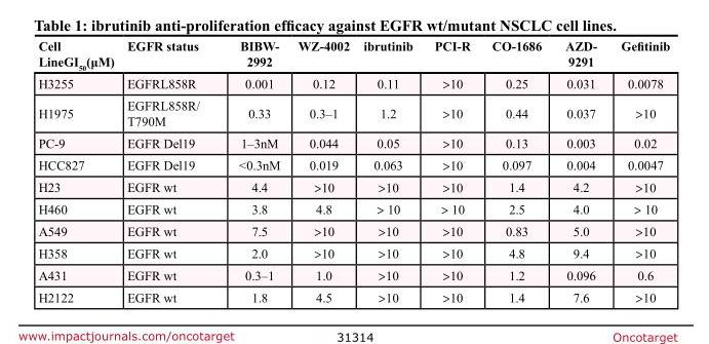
<table><thead><tr><td>Cell LineGI<sub>50</sub>(μM)</td><td>EGFR status</td><td>BIBW- 2992</td><td>WZ-4002</td><td>ibrutinib</td><td>PCI-R</td><td>CO-1686</td><td>AZD- 9291</td><td>Gefitinib</td></tr></thead><tbody><tr><td>H3255</td><td>EGFRL858R</td><td>0.001</td><td>0.12</td><td>0.11</td><td>&gt;10</td><td>0.25</td><td>0.031</td><td>0.0078</td></tr><tr><td>H1975</td><td>EGFRL858R/ T790M</td><td>0.33</td><td>0.3–1</td><td>1.2</td><td>&gt;10</td><td>0.44</td><td>0.037</td><td>&gt;10</td></tr><tr><td>PC-9</td><td>EGFR Del19</td><td>1–3nM</td><td>0.044</td><td>0.05</td><td>&gt;10</td><td>0.13</td><td>0.003</td><td>0.02</td></tr><tr><td>HCC827</td><td>EGFR Del19</td><td>&lt;0.3nM</td><td>0.019</td><td>0.063</td><td>&gt;10</td><td>0.097</td><td>0.004</td><td>0.0047</td></tr><tr><td>H23</td><td>EGFR wt</td><td>4.4</td><td>&gt;10</td><td>&gt;10</td><td>&gt;10</td><td>1.4</td><td>4.2</td><td>&gt;10</td></tr><tr><td>H460</td><td>EGFR wt</td><td>3.8</td><td>4.8</td><td>&gt; 10</td><td>&gt; 10</td><td>2.5</td><td>4.0</td><td>&gt; 10</td></tr><tr><td>A549</td><td>EGFR wt</td><td>7.5</td><td>&gt;10</td><td>&gt;10</td><td>&gt;10</td><td>0.83</td><td>5.0</td><td>&gt;10</td></tr><tr><td>H358</td><td>EGFR wt</td><td>2.0</td><td>&gt;10</td><td>&gt;10</td><td>&gt;10</td><td>4.8</td><td>9.4</td><td>&gt;10</td></tr><tr><td>A431</td><td>EGFR wt</td><td>0.3–1</td><td>1.0</td><td>&gt;10</td><td>&gt;10</td><td>1.2</td><td>0.096</td><td>0.6</td></tr><tr><td>H2122</td><td>EGFR wt</td><td>1.8</td><td>4.5</td><td>&gt;10</td><td>&gt;10</td><td>1.4</td><td>7.6</td><td>&gt;10</td></tr></tbody></table>